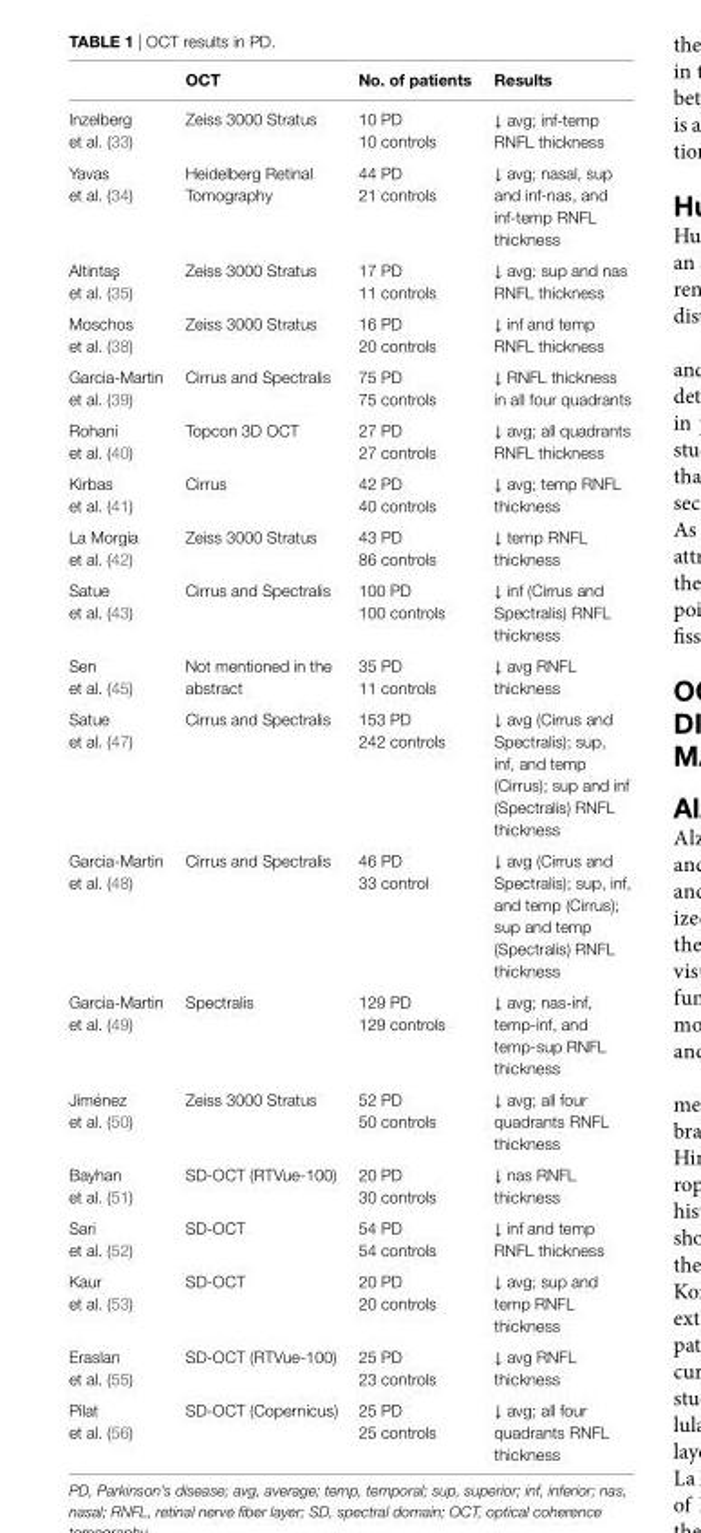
<table><thead><tr><td></td><td>OCT</td><td>no. of patients</td><td>Results</td></tr></thead><tbody><tr><td>Inzelberg et al. (33)</td><td>Zeiss 3000 Stratus</td><td>10 PD 10 controls</td><td>↓ avg; inf-temp RNFL thickness</td></tr><tr><td>Yavas et al. (34)</td><td>Heidelberg Retinal Tomography</td><td>44 PD 21 controls</td><td>↓ avg; nasal, sup and inf-nas, and inf-temp RNFL thickness</td></tr><tr><td>Altintas˛ et al. (35)</td><td>Zeiss 3000 Stratus</td><td>17 PD 11 controls</td><td>↓ avg; sup and nas RNFL thickness</td></tr><tr><td>Moschos et al. (38)</td><td>Zeiss 3000 Stratus</td><td>16 PD 20 controls</td><td>↓ inf and temp RNFL thickness</td></tr><tr><td>Garcia-Martin et al. (39)</td><td>Cirrus and Spectralis</td><td>75 PD 75 controls</td><td>↓ RNFL thickness in all four quadrants</td></tr><tr><td>Rohani et al. (40)</td><td>Topcon 3D OCT</td><td>27 PD 27 controls</td><td>↓ avg; all quadrants RNFL thickness</td></tr><tr><td>Kirbas et al. (41)</td><td>Cirrus</td><td>42 PD 40 controls</td><td>↓ avg; temp RNFL thickness</td></tr><tr><td>La Morgia et al. (42)</td><td>Zeiss 3000 Stratus</td><td>43 PD 86 controls</td><td>↓ temp RNFL thickness</td></tr><tr><td>Satue et al. (43)</td><td>Cirrus and Spectralis</td><td>100 PD 100 controls</td><td>↓ inf (Cirrus and Spectralis) RNFL thickness</td></tr><tr><td>Sen et al. (45)</td><td>Not mentioned in the abstract</td><td>35 PD 11 controls</td><td>↓ avg RNFL thickness</td></tr><tr><td>Satue et al. (47)</td><td>Cirrus and Spectralis</td><td>153 PD 242 controls</td><td>↓ avg (Cirrus and Spectralis); sup, inf, and temp (Cirrus); sup and inf (Spectralis) RNFL thickness</td></tr><tr><td>Garcia-Martin et al. (48)</td><td>Cirrus and Spectralis</td><td>46 PD 33 control</td><td>↓ avg (Cirrus and Spectralis); sup, inf, and temp (Cirrus); sup and temp (Spectralis) RNFL thickness</td></tr><tr><td>Garcia-Martin et al. (49)</td><td>Spectralis</td><td>129 PD 129 controls</td><td>↓ avg; nas-inf, temp-inf, and temp-sup RNFL thickness</td></tr><tr><td>Jiménez et al. (50)</td><td>Zeiss 3000 Stratus</td><td>52 PD 50 controls</td><td>↓ avg; all four quadrants RNFL thickness</td></tr><tr><td>Bayhan et al. (51)</td><td>SD-OCT (RTVue-100)</td><td>20 PD 30 controls</td><td>↓ nas RNFL thickness</td></tr><tr><td>Sari et al. (52)</td><td>SD-OCT</td><td>54 PD 54 controls</td><td>↓ inf and temp RNFL thickness</td></tr><tr><td>Kaur et al. (53)</td><td>SD-OCT</td><td>20 PD 20 controls</td><td>↓ avg; sup and temp RNFL thickness</td></tr><tr><td>Eraslan et al. (55)</td><td>SD-OCT (RTVue-100)</td><td>25 PD 23 controls</td><td>↓ avg RNFL thickness</td></tr><tr><td>Pilat et al. (56)</td><td>SD-OCT (Copernicus)</td><td>25 PD 25 controls</td><td>↓ avg; all four quadrants RNFL thickness</td></tr></tbody></table>